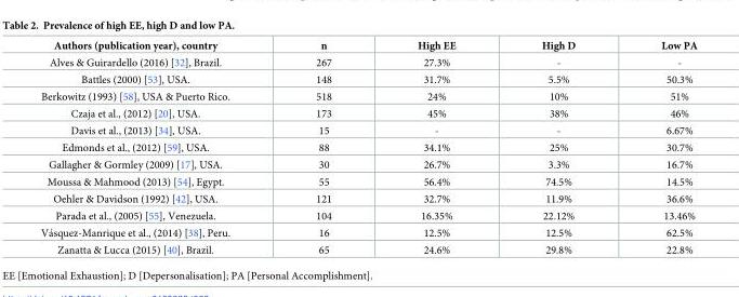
<table><thead><tr><td>Authors (publication year), country</td><td>n</td><td>High EE</td><td>High D</td><td>Low PA</td></tr></thead><tbody><tr><td>Alves &amp; Guirardello (2016) [32], Brazil.</td><td>267</td><td>27.3%</td><td>-</td><td>-</td></tr><tr><td>Battles (2000) [53], USA.</td><td>148</td><td>31.7%</td><td>5.5%</td><td>50.3%</td></tr><tr><td>Berkowitz (1993) [58], USA &amp; Puerto Rico.</td><td>518</td><td>24%</td><td>10%</td><td>51%</td></tr><tr><td>Czaja et al., (2012) [20], USA.</td><td>173</td><td>45%</td><td>38%</td><td>46%</td></tr><tr><td>Davis et al., (2013) [34], USA.</td><td>15</td><td>-</td><td>-</td><td>6.67%</td></tr><tr><td>Edmonds et al., (2012) [59], USA.</td><td>88</td><td>34.1%</td><td>25%</td><td>30.7%</td></tr><tr><td>Gallagher &amp; Gormley (2009) [17], USA.</td><td>30</td><td>26.7%</td><td>3.3%</td><td>16.7%</td></tr><tr><td>Moussa &amp; Mahmood (2013) [54], Egypt.</td><td>55</td><td>56.4%</td><td>74.5%</td><td>14.5%</td></tr><tr><td>Oehler &amp; Davidson (1992) [42], USA.</td><td>121</td><td>32.7%</td><td>11.9%</td><td>36.6%</td></tr><tr><td>Parada et al., (2005) [55], Venezuela.</td><td>104</td><td>16.35%</td><td>22.12%</td><td>13.46%</td></tr><tr><td>Va´squez-Manrique et al., (2014) [38], Peru.</td><td>16</td><td>12.5%</td><td>12.5%</td><td>62.5%</td></tr><tr><td>Zanatta &amp; Lucca (2015) [40], Brazil.</td><td>65</td><td>24.6%</td><td>29.8%</td><td>22.8%</td></tr></tbody></table>